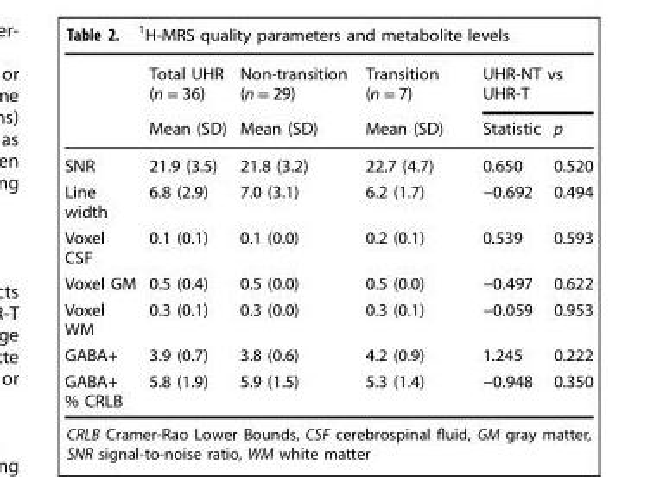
<table><thead><tr><td rowspan="2"></td><td rowspan="2">Total UHR (n = 36) Mean (SD)</td><td rowspan="2">Non-transition (n = 29) Mean (SD)</td><td rowspan="2">Transition (n = 7) Mean (SD)</td><td colspan="2">UHR-NT vs UHR-T</td></tr><tr><td>Statistic</td><td>p</td></tr></thead><tbody><tr><td>SNR</td><td>21.9 (3.5)</td><td>21.8 (3.2)</td><td>22.7 (4.7)</td><td>0.650</td><td>0.520</td></tr><tr><td>Line width</td><td>6.8 (2.9)</td><td>7.0 (3.1)</td><td>6.2 (1.7)</td><td>−0.692</td><td>0.494</td></tr><tr><td>Voxel CSF</td><td>0.1 (0.1)</td><td>0.1 (0.0)</td><td>0.2 (0.1)</td><td>0.539</td><td>0.593</td></tr><tr><td>Voxel GM</td><td>0.5 (0.4)</td><td>0.5 (0.0)</td><td>0.5 (0.0)</td><td>−0.497</td><td>0.622</td></tr><tr><td>Voxel WM</td><td>0.3 (0.1)</td><td>0.3 (0.0)</td><td>0.3 (0.1)</td><td>−0.059</td><td>0.953</td></tr><tr><td>GABA+</td><td>3.9 (0.7)</td><td>3.8 (0.6)</td><td>4.2 (0.9)</td><td>1.245</td><td>0.222</td></tr><tr><td>GABA+ % CRLB</td><td>5.8 (1.9)</td><td>5.9 (1.5)</td><td>5.3 (1.4)</td><td>−0.948</td><td>0.350</td></tr></tbody></table>